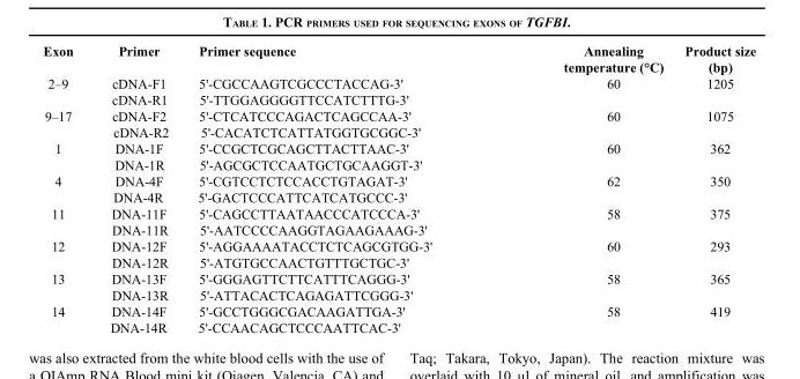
<table><thead><tr><td>Exon</td><td>Primer</td><td>Primer sequence</td><td>Annealing temperature (°C)</td><td>Product size (bp)</td></tr></thead><tbody><tr><td rowspan="2">2–9</td><td>cDNA-F1</td><td>5&#x27;-CGCCAAGTCGCCCTACCAG-3&#x27;</td><td rowspan="2">60</td><td rowspan="2">1205</td></tr><tr><td>cDNA-R1</td><td>5&#x27;-TTGGAGGGGTTCCATCTTTG-3&#x27;</td></tr><tr><td rowspan="2">9–17</td><td>cDNA-F2</td><td>5&#x27;-CTCATCCCAGACTCAGCCAA-3&#x27;</td><td rowspan="2">60</td><td rowspan="2">1075</td></tr><tr><td>cDNA-R2</td><td>5&#x27;-CACATCTCATTATGGTGCGGC-3&#x27;</td></tr><tr><td rowspan="2">1</td><td>DNA-1F</td><td>5&#x27;-CCGCTCGCAGCTTACTTAAC-3&#x27;</td><td rowspan="2">60</td><td rowspan="2">362</td></tr><tr><td>DNA-1R</td><td>5&#x27;-AGCGCTCCAATGCTGCAAGGT-3&#x27;</td></tr><tr><td rowspan="2">4</td><td>DNA-4F</td><td>5&#x27;-CGTCCTCTCCACCTGTAGAT-3&#x27;</td><td rowspan="2">62</td><td rowspan="2">350</td></tr><tr><td>DNA-4R</td><td>5&#x27;-GACTCCCATTCATCATGCCC-3&#x27;</td></tr><tr><td rowspan="2">11</td><td>DNA-11F</td><td>5&#x27;-CAGCCTTAATAACCCATCCCA-3&#x27;</td><td rowspan="2">58</td><td rowspan="2">375</td></tr><tr><td>DNA-11R</td><td>5&#x27;-AATCCCCAAGGTAGAAGAAAG-3&#x27;</td></tr><tr><td rowspan="2">12</td><td>DNA-12F</td><td>5&#x27;-AGGAAAATACCTCTCAGCGTGG-3&#x27;</td><td rowspan="2">60</td><td rowspan="2">293</td></tr><tr><td>DNA-12R</td><td>5&#x27;-ATGTGCCAACTGTTTGCTGC-3&#x27;</td></tr><tr><td rowspan="2">13</td><td>DNA-13F</td><td>5&#x27;-GGGAGTTCTTCATTTCAGGG-3&#x27;</td><td rowspan="2">58</td><td rowspan="2">365</td></tr><tr><td>DNA-13R</td><td>5&#x27;-ATTACACTCAGAGATTCGGG-3&#x27;</td></tr><tr><td rowspan="2">14</td><td>DNA-14F</td><td>5&#x27;-GCCTGGGCGACAAGATTGA-3&#x27;</td><td rowspan="2">58</td><td rowspan="2">419</td></tr><tr><td>DNA-14R</td><td>5&#x27;-CCAACAGCTCCCAATTCAC-3&#x27;</td></tr></tbody></table>